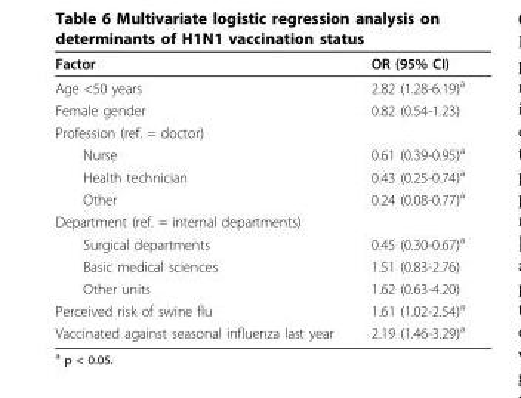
<table><thead><tr><td>Factor</td><td>OR (95% CI)</td></tr></thead><tbody><tr><td>Age &lt;50 years</td><td>2.82 (1.28-6.19)<sup>a</sup></td></tr><tr><td>Female gender</td><td>0.82 (0.54-1.23)</td></tr><tr><td colspan="2">Profession (ref. = doctor)</td></tr><tr><td>Nurse</td><td>0.61 (0.39-0.95)<sup>a</sup></td></tr><tr><td>Health technician</td><td>0.43 (0.25-0.74)<sup>a</sup></td></tr><tr><td>Other</td><td>0.24 (0.08-0.77)<sup>a</sup></td></tr><tr><td colspan="2">Department (ref. = internal departments)</td></tr><tr><td>Surgical departments</td><td>0.45 (0.30-0.67)<sup>a</sup></td></tr><tr><td>Basic medical sciences</td><td>1.51 (0.83-2.76)</td></tr><tr><td>Other units</td><td>1.62 (0.63-4.20)</td></tr><tr><td>Perceived risk of swine flu</td><td>1.61 (1.02-2.54)<sup>a</sup></td></tr><tr><td>Vaccinated against seasonal influenza last year</td><td>2.19 (1.46-3.29)<sup>a</sup></td></tr></tbody></table>